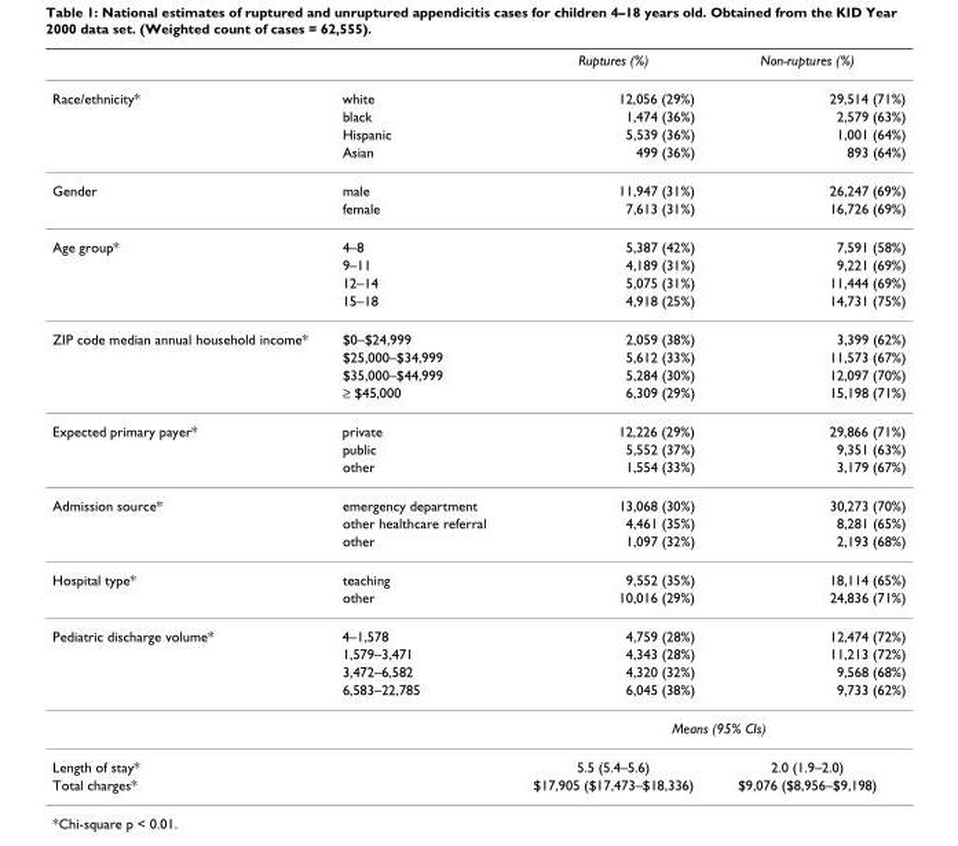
<table><thead><tr><td></td><td></td><td>Ruptures (%)</td><td>Non-ruptures (%)</td></tr></thead><tbody><tr><td rowspan="4">Race/ethnicity*</td><td>white</td><td>12,056 (29%)</td><td>29,514 (71%)</td></tr><tr><td>black</td><td>1,474 (36%)</td><td>2,579 (63%)</td></tr><tr><td>Hispanic</td><td>5,539 (36%)</td><td>1,001 (64%)</td></tr><tr><td>Asian</td><td>499 (36%)</td><td>893 (64%)</td></tr><tr><td rowspan="2">Gender</td><td>male</td><td>11,947 (31%)</td><td>26,247 (69%)</td></tr><tr><td>female</td><td>7,613 (31%)</td><td>16,726 (69%)</td></tr><tr><td rowspan="4">Age group*</td><td>4–8</td><td>5,387 (42%)</td><td>7,591 (58%)</td></tr><tr><td>9–11</td><td>4,189 (31%)</td><td>9,221 (69%)</td></tr><tr><td>12–14</td><td>5,075 (31%)</td><td>11,444 (69%)</td></tr><tr><td>15–18</td><td>4,918 (25%)</td><td>14,731 (75%)</td></tr><tr><td rowspan="4">ZIP code median annual household income*</td><td>$0–$24,999</td><td>2,059 (38%)</td><td>3,399 (62%)</td></tr><tr><td>$25,000–$34,999</td><td>5,612 (33%)</td><td>11,573 (67%)</td></tr><tr><td>$35,000–$44,999</td><td>5,284 (30%)</td><td>12,097 (70%)</td></tr><tr><td>≥ $45,000</td><td>6,309 (29%)</td><td>15,198 (71%)</td></tr><tr><td rowspan="3">Expected primary payer*</td><td>private</td><td>12,226 (29%)</td><td>29,866 (71%)</td></tr><tr><td>public</td><td>5,552 (37%)</td><td>9,351 (63%)</td></tr><tr><td>other</td><td>1,554 (33%)</td><td>3,179 (67%)</td></tr><tr><td rowspan="3">Admission source*</td><td>emergency department</td><td>13,068 (30%)</td><td>30,273 (70%)</td></tr><tr><td>other healthcare referral</td><td>4,461 (35%)</td><td>8,281 (65%)</td></tr><tr><td>other</td><td>1,097 (32%)</td><td>2,193 (68%)</td></tr><tr><td rowspan="2">Hospital type*</td><td>teaching</td><td>9,552 (35%)</td><td>18,114 (65%)</td></tr><tr><td>other</td><td>10,016 (29%)</td><td>24,836 (71%)</td></tr><tr><td rowspan="5">Pediatric discharge volume*</td><td>4–1,578</td><td>4,759 (28%)</td><td>12,474 (72%)</td></tr><tr><td>1,579–3,471</td><td>4,343 (28%)</td><td>11,213 (72%)</td></tr><tr><td>3,472–6,582</td><td>4,320 (32%)</td><td>9,568 (68%)</td></tr><tr><td>6,583–22,785</td><td>6,045 (38%)</td><td>9,733 (62%)</td></tr><tr><td></td><td colspan="2">Means (95% CIs)</td></tr><tr><td>Length of stay*</td><td></td><td>5.5 (5.4–5.6)</td><td>2.0 (1.9–2.0)</td></tr><tr><td>Total charges*</td><td></td><td>$17,905 ($17,473–$18,336)</td><td>$9,076 ($8,956–$9,198)</td></tr></tbody></table>